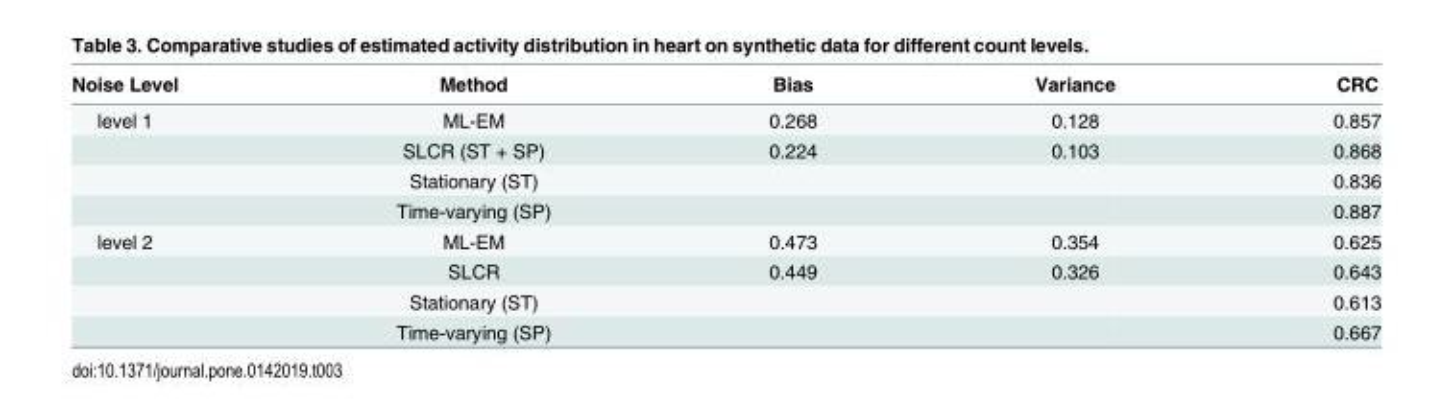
<table><thead><tr><td>Noise Level</td><td>Method</td><td>Bias</td><td>Variance</td><td>CRC</td></tr></thead><tbody><tr><td rowspan="4">level 1</td><td>ML-EM</td><td>0.268</td><td>0.128</td><td>0.857</td></tr><tr><td>SLCR (ST + SP)</td><td>0.224</td><td>0.103</td><td>0.868</td></tr><tr><td>Stationary (ST)</td><td></td><td></td><td>0.836</td></tr><tr><td>Time-varying (SP)</td><td></td><td></td><td>0.887</td></tr><tr><td rowspan="4">level 2</td><td>ML-EM</td><td>0.473</td><td>0.354</td><td>0.625</td></tr><tr><td>SLCR</td><td>0.449</td><td>0.326</td><td>0.643</td></tr><tr><td>Stationary (ST)</td><td></td><td></td><td>0.613</td></tr><tr><td>Time-varying (SP)</td><td></td><td></td><td>0.667</td></tr></tbody></table>